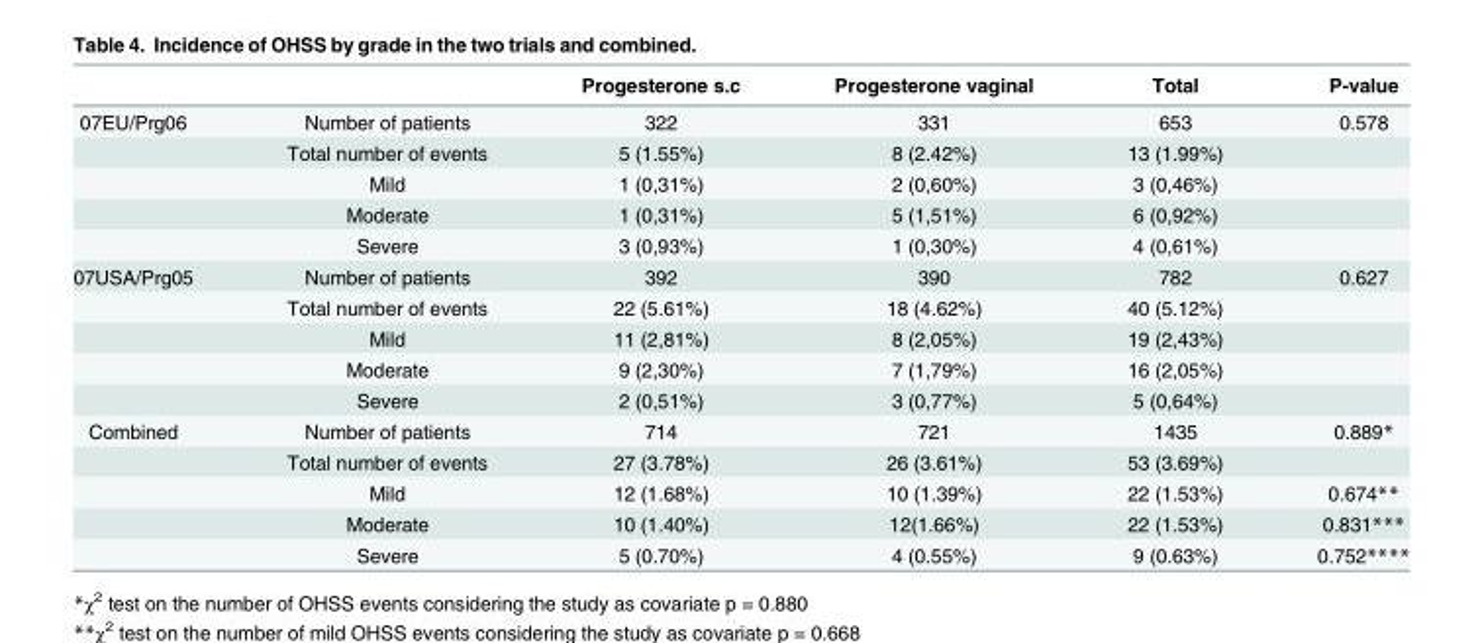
<table><thead><tr><td></td><td></td><td>Progesterone s.c</td><td>Progesterone vaginal</td><td>Total</td><td>P-value</td></tr></thead><tbody><tr><td rowspan="5">07EU/Prg06</td><td>Number of patients</td><td>322</td><td>331</td><td>653</td><td>0.578</td></tr><tr><td>Total number of events</td><td>5 (1.55%)</td><td>8 (2.42%)</td><td>13 (1.99%)</td><td></td></tr><tr><td>Mild</td><td>1 (0,31%)</td><td>2 (0,60%)</td><td>3 (0,46%)</td><td></td></tr><tr><td>Moderate</td><td>1 (0,31%)</td><td>5 (1,51%)</td><td>6 (0,92%)</td><td></td></tr><tr><td>Severe</td><td>3 (0,93%)</td><td>1 (0,30%)</td><td>4 (0,61%)</td><td></td></tr><tr><td rowspan="5">07USA/Prg05</td><td>Number of patients</td><td>392</td><td>390</td><td>782</td><td>0.627</td></tr><tr><td>Total number of events</td><td>22 (5.61%)</td><td>18 (4.62%)</td><td>40 (5.12%)</td><td></td></tr><tr><td>Mild</td><td>11 (2,81%)</td><td>8 (2,05%)</td><td>19 (2,43%)</td><td></td></tr><tr><td>Moderate</td><td>9 (2,30%)</td><td>7 (1,79%)</td><td>16 (2,05%)</td><td></td></tr><tr><td>Severe</td><td>2 (0,51%)</td><td>3 (0,77%)</td><td>5 (0,64%)</td><td></td></tr><tr><td rowspan="5">Combined</td><td>Number of patients</td><td>714</td><td>721</td><td>1435</td><td>0.889*</td></tr><tr><td>Total number of events</td><td>27 (3.78%)</td><td>26 (3.61%)</td><td>53 (3.69%)</td><td></td></tr><tr><td>Mild</td><td>12 (1.68%)</td><td>10 (1.39%)</td><td>22 (1.53%)</td><td>0.674**</td></tr><tr><td>Moderate</td><td>10 (1.40%)</td><td>12(1.66%)</td><td>22 (1.53%)</td><td>0.831***</td></tr><tr><td>Severe</td><td>5 (0.70%)</td><td>4 (0.55%)</td><td>9 (0.63%)</td><td>0.752****</td></tr></tbody></table>